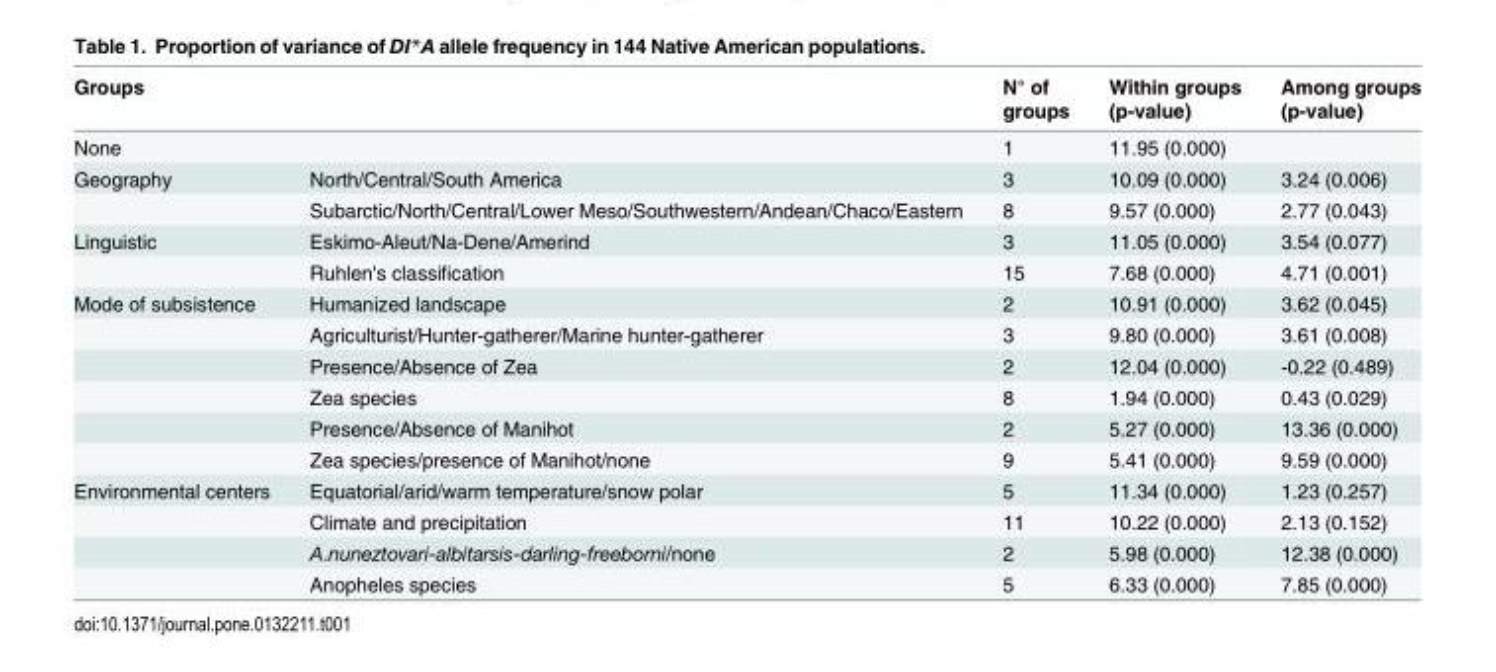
<table><thead><tr><td colspan="2">Groups</td><td rowspan="2">N° of groups 1</td><td rowspan="2">Within groups (p-value) 11.95 (0.000)</td><td rowspan="2">Among groups (p-value)</td></tr><tr><td>None</td><td></td></tr></thead><tbody><tr><td rowspan="2">Geography</td><td>North/Central/South America</td><td>3</td><td>10.09 (0.000)</td><td>3.24 (0.006)</td></tr><tr><td>Subarctic/North/Central/Lower Meso/Southwestern/Andean/Chaco/Eastern</td><td>8</td><td>9.57 (0.000)</td><td>2.77 (0.043)</td></tr><tr><td rowspan="2">Linguistic</td><td>Eskimo-Aleut/Na-Dene/Amerind</td><td>3</td><td>11.05 (0.000)</td><td>3.54 (0.077)</td></tr><tr><td>Ruhlen&#x27;s classification</td><td>15</td><td>7.68 (0.000)</td><td>4.71 (0.001)</td></tr><tr><td rowspan="6">Mode of subsistence</td><td>Humanized landscape</td><td>2</td><td>10.91 (0.000)</td><td>3.62 (0.045)</td></tr><tr><td>Agriculturist/Hunter-gatherer/Marine hunter-gatherer</td><td>3</td><td>9.80 (0.000)</td><td>3.61 (0.008)</td></tr><tr><td>Presence/Absence of Zea</td><td>2</td><td>12.04 (0.000)</td><td>-0.22 (0.489)</td></tr><tr><td>Zea species</td><td>8</td><td>1.94 (0.000)</td><td>0.43 (0.029)</td></tr><tr><td>Presence/Absence of Manihot</td><td>2</td><td>5.27 (0.000)</td><td>13.36 (0.000)</td></tr><tr><td>Zea species/presence of Manihot/none</td><td>9</td><td>5.41 (0.000)</td><td>9.59 (0.000)</td></tr><tr><td rowspan="4">Environmental centers</td><td>Equatorial/arid/warm temperature/snow polar</td><td>5</td><td>11.34 (0.000)</td><td>1.23 (0.257)</td></tr><tr><td>Climate and precipitation</td><td>11</td><td>10.22 (0.000)</td><td>2.13 (0.152)</td></tr><tr><td>A.nuneztovari-albitarsis-darling-freeborni/none</td><td>2</td><td>5.98 (0.000)</td><td>12.38 (0.000)</td></tr><tr><td>Anopheles species</td><td>5</td><td>6.33 (0.000)</td><td>7.85 (0.000)</td></tr></tbody></table>